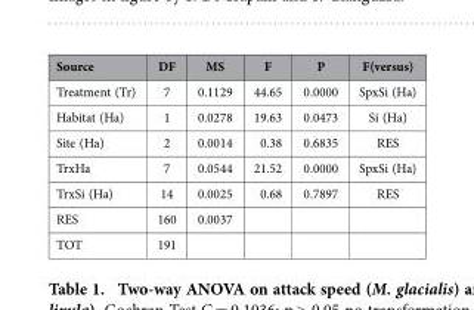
<table><thead><tr><td>Source</td><td>DF</td><td>MS</td><td>F</td><td>P</td><td>F(versus)</td></tr></thead><tbody><tr><td>Treatment (Tr)</td><td>7</td><td>0.1129</td><td>44.65</td><td>0.0000</td><td>SpxSi (Ha)</td></tr><tr><td>Habitat (Ha)</td><td>1</td><td>0.0278</td><td>19.63</td><td>0.0473</td><td>Si (Ha)</td></tr><tr><td>Site (Ha)</td><td>2</td><td>0.0014</td><td>0.38</td><td>0.6835</td><td>RES</td></tr><tr><td>TrxHa</td><td>7</td><td>0.0544</td><td>21.52</td><td>0.0000</td><td>SpxSi (Ha)</td></tr><tr><td>TrxSi (Ha)</td><td>14</td><td>0.0025</td><td>0.68</td><td>0.7897</td><td>RES</td></tr><tr><td>RES</td><td>160</td><td>0.0037</td><td></td><td></td><td></td></tr><tr><td>TOT</td><td>191</td><td></td><td></td><td></td><td></td></tr></tbody></table>